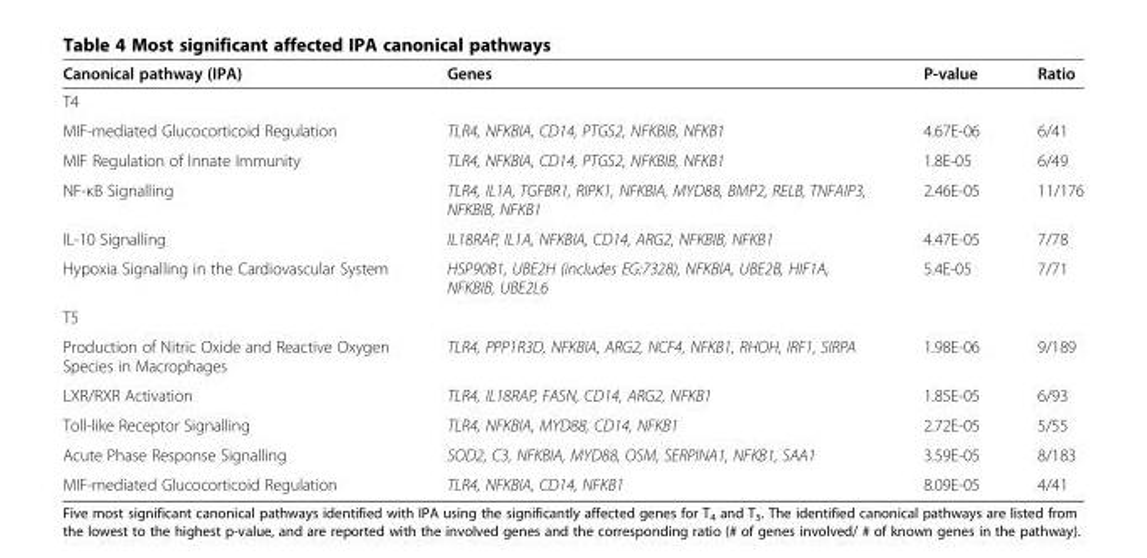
<table><thead><tr><td>Canonical pathway (IPA)</td><td>Genes</td><td>P-value</td><td>Ratio</td></tr></thead><tbody><tr><td colspan="4">T4</td></tr><tr><td>MIF-mediated Glucocorticoid Regulation</td><td>TLR4, NFKBIA, CD14, PTGS2, NFKBIB, NFKB1</td><td>4.67E-06</td><td>6/41</td></tr><tr><td>MIF Regulation of Innate Immunity</td><td>TLR4, NFKBIA, CD14, PTGS2, NFKBIB, NFKB1</td><td>1.8E-05</td><td>6/49</td></tr><tr><td>NF-κB Signalling</td><td>TLR4, IL1A, TGFBR1, RIPK1, NFKBIA, MYD88, BMP2, RELB, TNFAIP3, NFKBIB, NFKB1</td><td>2.46E-05</td><td>11/176</td></tr><tr><td>IL-10 Signalling</td><td>IL18RAP, IL1A, NFKBIA, CD14, ARG2, NFKBIB, NFKB1</td><td>4.47E-05</td><td>7/78</td></tr><tr><td>Hypoxia Signalling in the Cardiovascular System</td><td>HSP90B1, UBE2H (includes EG:7328), NFKBIA, UBE2B, HIF1A, NFKBIB, UBE2L6</td><td>5.4E-05</td><td>7/71</td></tr><tr><td colspan="4">T5</td></tr><tr><td>Production of Nitric Oxide and Reactive Oxygen Species in Macrophages</td><td>TLR4, PPP1R3D, NFKBIA, ARG2, NCF4, NFKB1, RHOH, IRF1, SIRPA</td><td>1.98E-06</td><td>9/189</td></tr><tr><td>LXR/RXR Activation</td><td>TLR4, IL18RAP, FASN, CD14, ARG2, NFKB1</td><td>1.85E-05</td><td>6/93</td></tr><tr><td>Toll-like Receptor Signalling</td><td>TLR4, NFKBIA, MYD88, CD14, NFKB1</td><td>2.72E-05</td><td>5/55</td></tr><tr><td>Acute Phase Response Signalling</td><td>SOD2, C3, NFKBIA, MYD88, OSM, SERPINA1, NFKB1, SAA1</td><td>3.59E-05</td><td>8/183</td></tr><tr><td>MIF-mediated Glucocorticoid Regulation</td><td>TLR4, NFKBIA, CD14, NFKB1</td><td>8.09E-05</td><td>4/41</td></tr></tbody></table>